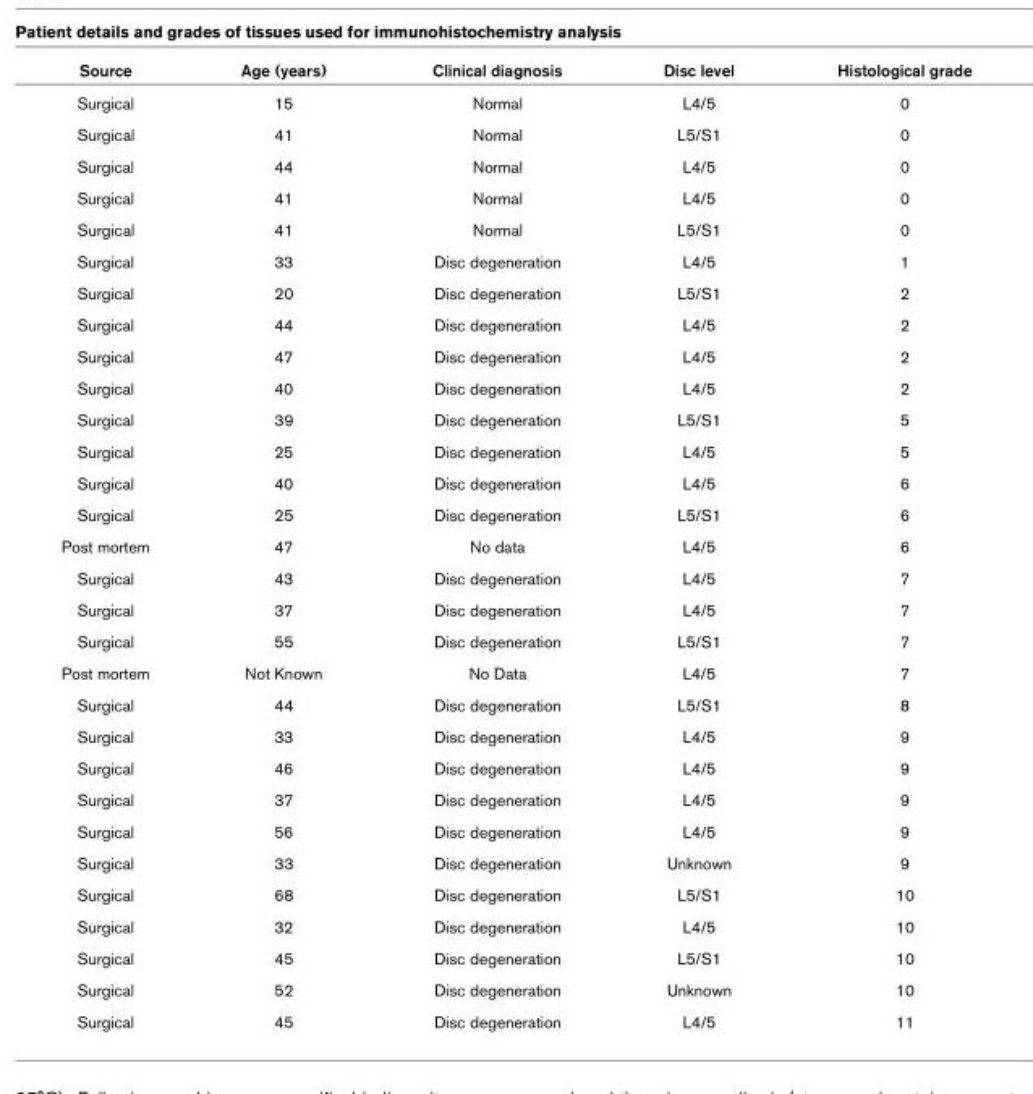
<table><thead><tr><td>Source</td><td>Age (years)</td><td>Clinical diagnosis</td><td>Disc level</td><td>Histological grade</td></tr></thead><tbody><tr><td>Surgical</td><td>15</td><td>Normal</td><td>L4/5</td><td>0</td></tr><tr><td>Surgical</td><td>41</td><td>Normal</td><td>L5/S1</td><td>0</td></tr><tr><td>Surgical</td><td>44</td><td>Normal</td><td>L4/5</td><td>0</td></tr><tr><td>Surgical</td><td>41</td><td>Normal</td><td>L4/5</td><td>0</td></tr><tr><td>Surgical</td><td>41</td><td>Normal</td><td>L5/S1</td><td>0</td></tr><tr><td>Surgical</td><td>33</td><td>Disc degeneration</td><td>L4/5</td><td>1</td></tr><tr><td>Surgical</td><td>20</td><td>Disc degeneration</td><td>L5/S1</td><td>2</td></tr><tr><td>Surgical</td><td>44</td><td>Disc degeneration</td><td>L4/5</td><td>2</td></tr><tr><td>Surgical</td><td>47</td><td>Disc degeneration</td><td>L4/5</td><td>2</td></tr><tr><td>Surgical</td><td>40</td><td>Disc degeneration</td><td>L4/5</td><td>2</td></tr><tr><td>Surgical</td><td>39</td><td>Disc degeneration</td><td>L5/S1</td><td>5</td></tr><tr><td>Surgical</td><td>25</td><td>Disc degeneration</td><td>L4/5</td><td>5</td></tr><tr><td>Surgical</td><td>40</td><td>Disc degeneration</td><td>L4/5</td><td>6</td></tr><tr><td>Surgical</td><td>25</td><td>Disc degeneration</td><td>L5/S1</td><td>6</td></tr><tr><td>Post mortem</td><td>47</td><td>No data</td><td>L4/5</td><td>6</td></tr><tr><td>Surgical</td><td>43</td><td>Disc degeneration</td><td>L4/5</td><td>7</td></tr><tr><td>Surgical</td><td>37</td><td>Disc degeneration</td><td>L4/5</td><td>7</td></tr><tr><td>Surgical</td><td>55</td><td>Disc degeneration</td><td>L5/S1</td><td>7</td></tr><tr><td>Post mortem</td><td>Not Known</td><td>No Data</td><td>L4/5</td><td>7</td></tr><tr><td>Surgical</td><td>44</td><td>Disc degeneration</td><td>L5/S1</td><td>8</td></tr><tr><td>Surgical</td><td>33</td><td>Disc degeneration</td><td>L4/5</td><td>9</td></tr><tr><td>Surgical</td><td>46</td><td>Disc degeneration</td><td>L4/5</td><td>9</td></tr><tr><td>Surgical</td><td>37</td><td>Disc degeneration</td><td>L4/5</td><td>9</td></tr><tr><td>Surgical</td><td>56</td><td>Disc degeneration</td><td>L4/5</td><td>9</td></tr><tr><td>Surgical</td><td>33</td><td>Disc degeneration</td><td>Unknown</td><td>9</td></tr><tr><td>Surgical</td><td>68</td><td>Disc degeneration</td><td>L5/S1</td><td>10</td></tr><tr><td>Surgical</td><td>32</td><td>Disc degeneration</td><td>L4/5</td><td>10</td></tr><tr><td>Surgical</td><td>45</td><td>Disc degeneration</td><td>L5/S1</td><td>10</td></tr><tr><td>Surgical</td><td>52</td><td>Disc degeneration</td><td>Unknown</td><td>10</td></tr><tr><td>Surgical</td><td>45</td><td>Disc degeneration</td><td>L4/5</td><td>11</td></tr></tbody></table>